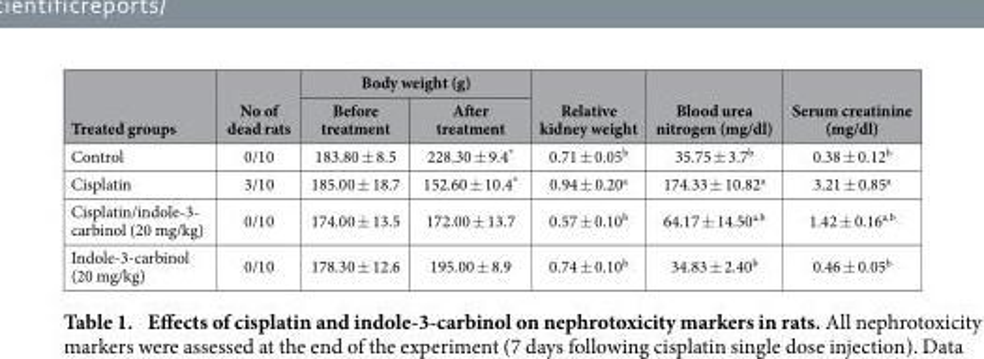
<table><thead><tr><td rowspan="2">Treated groups</td><td rowspan="2">No of dead rats</td><td colspan="2">Body weight (g)</td><td rowspan="2">Relative kidney weight</td><td rowspan="2">Blood urea nitrogen (mg/dl)</td><td rowspan="2">Serum creatinine (mg/dl)</td></tr><tr><td>Before treatment</td><td>After treatment</td></tr></thead><tbody><tr><td>Control</td><td>0/10</td><td>183.80 ± 8.5</td><td>228.30 ± 9.4*</td><td>0.71 ± 0.05<sup>b</sup></td><td>35.75 ± 3.7<sup>b</sup></td><td>0.38 ± 0.12<sup>b</sup></td></tr><tr><td>Cisplatin</td><td>3/10</td><td>185.00 ± 18.7</td><td>152.60 ± 10.4*</td><td>0.94 ± 0.20<sup>a</sup></td><td>174.33 ± 10.82<sup>a</sup></td><td>3.21 ± 0.85<sup>a</sup></td></tr><tr><td>Cisplatin/indole-3- carbinol (20 mg/kg)</td><td>0/10</td><td>174.00 ± 13.5</td><td>172.00 ± 13.7</td><td>0.57 ± 0.10<sup>b</sup></td><td>64.17 ± 14.50<sup>a,b</sup></td><td>1.42 ± 0.16<sup>a,b</sup></td></tr><tr><td>Indole-3-carbinol (20 mg/kg)</td><td>0/10</td><td>178.30 ± 12.6</td><td>195.00 ± 8.9</td><td>0.74 ± 0.10<sup>b</sup></td><td>34.83 ± 2.40<sup>b</sup></td><td>0.46 ± 0.05<sup>b</sup></td></tr></tbody></table>